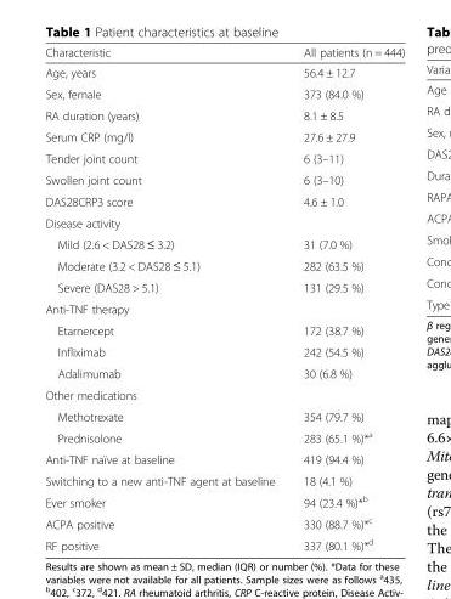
<table><thead><tr><td>Characteristic</td><td>All patients (n = 444)</td></tr></thead><tbody><tr><td>Age, years</td><td>56.4 ± 12.7</td></tr><tr><td>Sex, female</td><td>373 (84.0 %)</td></tr><tr><td>RA duration (years)</td><td>8.1 ± 8.5</td></tr><tr><td>Serum CRP (mg/l)</td><td>27.6 ± 27.9</td></tr><tr><td>Tender joint count</td><td>6 (3–11)</td></tr><tr><td>Swollen joint count</td><td>6 (3–10)</td></tr><tr><td>DAS28CRP3 score</td><td>4.6 ± 1.0</td></tr><tr><td colspan="2">Disease activity</td></tr><tr><td>Mild (2.6 &lt; DAS28 ≤ 3.2)</td><td>31 (7.0 %)</td></tr><tr><td>Moderate (3.2 &lt; DAS28 ≤ 5.1)</td><td>282 (63.5 %)</td></tr><tr><td>Severe (DAS28 &gt; 5.1)</td><td>131 (29.5 %)</td></tr><tr><td colspan="2">Anti-TNF therapy</td></tr><tr><td>Etarnercept</td><td>172 (38.7 %)</td></tr><tr><td>Infliximab</td><td>242 (54.5 %)</td></tr><tr><td>Adalimumab</td><td>30 (6.8 %)</td></tr><tr><td colspan="2">Other medications</td></tr><tr><td>Methotrexate</td><td>354 (79.7 %)</td></tr><tr><td>Prednisolone</td><td>283 (65.1 %)*<sup>a</sup></td></tr><tr><td>Anti-TNF naïve at baseline</td><td>419 (94.4 %)</td></tr><tr><td>Switching to a new anti-TNF agent at baseline</td><td>18 (4.1 %)</td></tr><tr><td>Ever smoker</td><td>94 (23.4 %)*<sup>b</sup></td></tr><tr><td>ACPA positive</td><td>330 (88.7 %)*<sup>c</sup></td></tr><tr><td>RF positive</td><td>337 (80.1 %)*<sup>d</sup></td></tr></tbody></table>